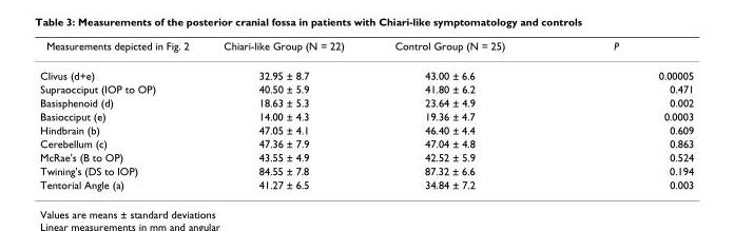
<table><thead><tr><td>Measurements depicted in Fig. 2</td><td>Chiari-like Group (N = 22)</td><td>Control Group (N = 25)</td><td>P</td></tr></thead><tbody><tr><td>Clivus (d+e)</td><td>32.95 ± 8.7</td><td>43.00 ± 6.6</td><td>0.00005</td></tr><tr><td>Supraocciput (IOP to OP)</td><td>40.50 ± 5.9</td><td>41.80 ± 6.2</td><td>0.471</td></tr><tr><td>Basisphenoid (d)</td><td>18.63 ± 5.3</td><td>23.64 ± 4.9</td><td>0.002</td></tr><tr><td>Basiocciput (e)</td><td>14.00 ± 4.3</td><td>19.36 ± 4.7</td><td>0.0003</td></tr><tr><td>Hindbrain (b)</td><td>47.05 ± 4.1</td><td>46.40 ± 4.4</td><td>0.609</td></tr><tr><td>Cerebellum (c)</td><td>47.36 ± 7.9</td><td>47.04 ± 4.8</td><td>0.863</td></tr><tr><td>McRae&#x27;s (B to OP)</td><td>43.55 ± 4.9</td><td>42.52 ± 5.9</td><td>0.524</td></tr><tr><td>Twining&#x27;s (DS to IOP)</td><td>84.55 ± 7.8</td><td>87.32 ± 6.6</td><td>0.194</td></tr><tr><td>Tentorial Angle (a)</td><td>41.27 ± 6.5</td><td>34.84 ± 7.2</td><td>0.003</td></tr></tbody></table>